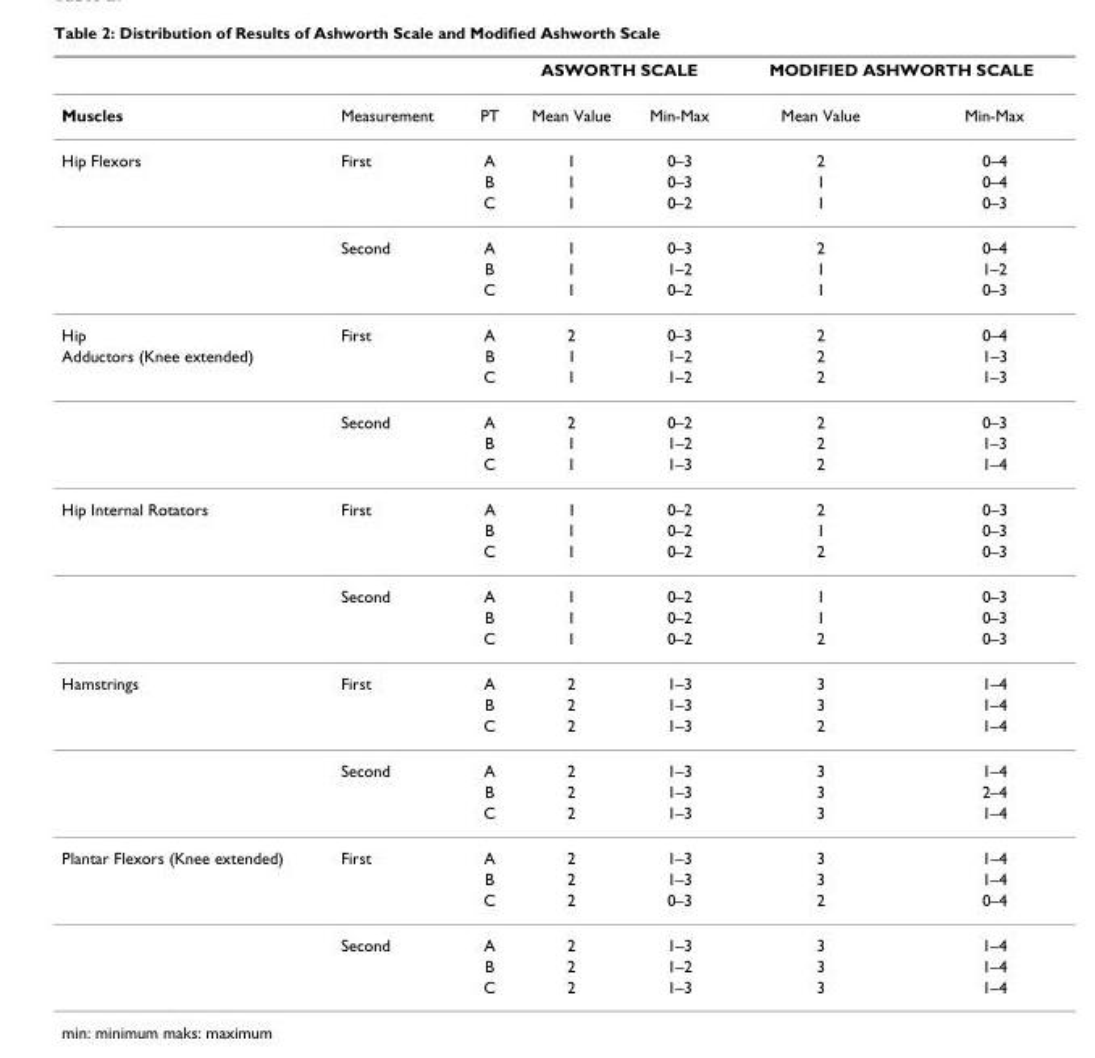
<table><thead><tr><td rowspan="2">Muscles</td><td rowspan="2">Measurement</td><td rowspan="2">PT</td><td colspan="2">ASWORTH SCALE</td><td colspan="2">MODIFIED ASHWORTH SCALE</td></tr><tr><td>Mean Value</td><td>Min-Max</td><td>Mean Value</td><td>Min-Max</td></tr></thead><tbody><tr><td rowspan="6">Hip Flexors</td><td>First</td><td>A</td><td>1</td><td>0–3</td><td>2</td><td>0–4</td></tr><tr><td></td><td>B</td><td>1</td><td>0–3</td><td>1</td><td>0–4</td></tr><tr><td></td><td>C</td><td>1</td><td>0–2</td><td>1</td><td>0–3</td></tr><tr><td>Second</td><td>A</td><td>1</td><td>0–3</td><td>2</td><td>0–4</td></tr><tr><td></td><td>B</td><td>1</td><td>1–2</td><td>1</td><td>1–2</td></tr><tr><td></td><td>C</td><td>1</td><td>0–2</td><td>1</td><td>0–3</td></tr><tr><td>Hip</td><td>First</td><td>A</td><td>2</td><td>0–3</td><td>2</td><td>0–4</td></tr><tr><td rowspan="5">Adductors (Knee extended)</td><td></td><td>B</td><td>1</td><td>1–2</td><td>2</td><td>1–3</td></tr><tr><td></td><td>C</td><td>1</td><td>1–2</td><td>2</td><td>1–3</td></tr><tr><td>Second</td><td>A</td><td>2</td><td>0–2</td><td>2</td><td>0–3</td></tr><tr><td></td><td>B</td><td>1</td><td>1–2</td><td>2</td><td>1–3</td></tr><tr><td></td><td>C</td><td>1</td><td>1–3</td><td>2</td><td>1–4</td></tr><tr><td rowspan="6">Hip Internal Rotators</td><td>First</td><td>A</td><td>1</td><td>0–2</td><td>2</td><td>0–3</td></tr><tr><td></td><td>B</td><td>1</td><td>0–2</td><td>1</td><td>0–3</td></tr><tr><td></td><td>C</td><td>1</td><td>0–2</td><td>2</td><td>0–3</td></tr><tr><td>Second</td><td>A</td><td>1</td><td>0–2</td><td>1</td><td>0–3</td></tr><tr><td></td><td>B</td><td>1</td><td>0–2</td><td>1</td><td>0–3</td></tr><tr><td></td><td>C</td><td>1</td><td>0–2</td><td>2</td><td>0–3</td></tr><tr><td rowspan="6">Hamstrings</td><td>First</td><td>A</td><td>2</td><td>1–3</td><td>3</td><td>1–4</td></tr><tr><td></td><td>B</td><td>2</td><td>1–3</td><td>3</td><td>1–4</td></tr><tr><td></td><td>C</td><td>2</td><td>1–3</td><td>2</td><td>1–4</td></tr><tr><td>Second</td><td>A</td><td>2</td><td>1–3</td><td>3</td><td>1–4</td></tr><tr><td></td><td>B</td><td>2</td><td>1–3</td><td>3</td><td>2–4</td></tr><tr><td></td><td>C</td><td>2</td><td>1–3</td><td>3</td><td>1–4</td></tr><tr><td rowspan="6">Plantar Flexors (Knee extended)</td><td>First</td><td>A</td><td>2</td><td>1–3</td><td>3</td><td>1–4</td></tr><tr><td></td><td>B</td><td>2</td><td>1–3</td><td>3</td><td>1–4</td></tr><tr><td></td><td>C</td><td>2</td><td>0–3</td><td>2</td><td>0–4</td></tr><tr><td>Second</td><td>A</td><td>2</td><td>1–3</td><td>3</td><td>1–4</td></tr><tr><td></td><td>B</td><td>2</td><td>1–2</td><td>3</td><td>1–4</td></tr><tr><td></td><td>C</td><td>2</td><td>1–3</td><td>3</td><td>1–4</td></tr></tbody></table>